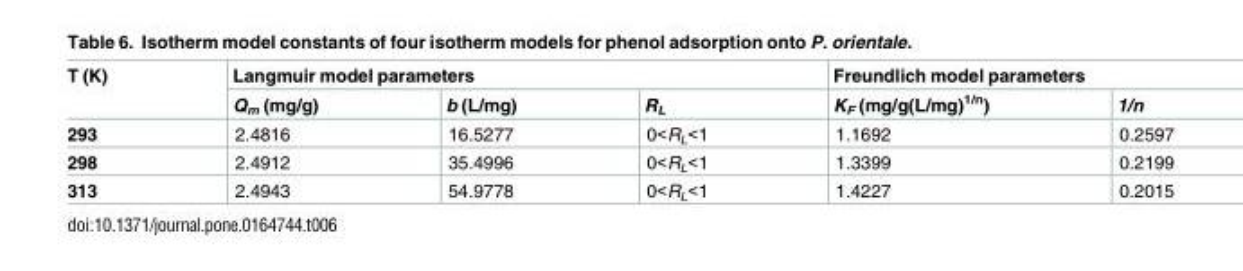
<table><thead><tr><td rowspan="2">T (K)</td><td colspan="3">Langmuir model parameters</td><td colspan="2">Freundlich model parameters</td></tr><tr><td>Q<sub>m</sub> (mg/g)</td><td>b (L/mg)</td><td>R<sub>L</sub></td><td>K<sub>F</sub> (mg/g(L/mg)<sup>1/n</sup>)</td><td>1/n</td></tr></thead><tbody><tr><td>293</td><td>2.4816</td><td>16.5277</td><td>0&lt;R<sub>L</sub>&lt;1</td><td>1.1692</td><td>0.2597</td></tr><tr><td>298</td><td>2.4912</td><td>35.4996</td><td>0&lt;R<sub>L</sub>&lt;1</td><td>1.3399</td><td>0.2199</td></tr><tr><td>313</td><td>2.4943</td><td>54.9778</td><td>0&lt;R<sub>L</sub>&lt;1</td><td>1.4227</td><td>0.2015</td></tr></tbody></table>